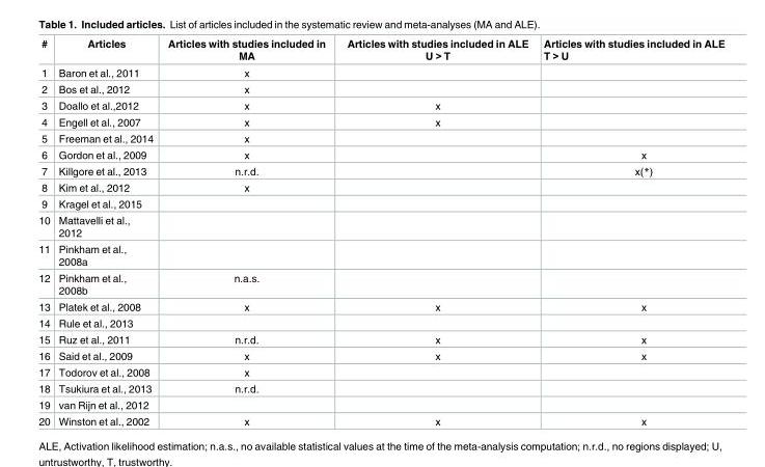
<table><thead><tr><td>#</td><td>Articles</td><td>Articles with studies included in MA</td><td>Articles with studies included in ALE U &gt; T</td><td>Articles with studies included in ALE T &gt; U</td></tr></thead><tbody><tr><td>1</td><td>Baron et al., 2011</td><td>x</td><td></td><td></td></tr><tr><td>2</td><td>Bos et al., 2012</td><td>x</td><td></td><td></td></tr><tr><td>3</td><td>Doallo et al.,2012</td><td>x</td><td>x</td><td></td></tr><tr><td>4</td><td>Engell et al., 2007</td><td>x</td><td>x</td><td></td></tr><tr><td>5</td><td>Freeman et al., 2014</td><td>x</td><td></td><td></td></tr><tr><td>6</td><td>Gordon et al., 2009</td><td>x</td><td></td><td>x</td></tr><tr><td>7</td><td>Killgore et al., 2013</td><td>n.r.d.</td><td></td><td>x(*)</td></tr><tr><td>8</td><td>Kim et al., 2012</td><td>x</td><td></td><td></td></tr><tr><td>9</td><td>Kragel et al., 2015</td><td></td><td></td><td></td></tr><tr><td>10</td><td>Mattavelli et al., 2012</td><td></td><td></td><td></td></tr><tr><td>11</td><td>Pinkham et al., 2008a</td><td></td><td></td><td></td></tr><tr><td>12</td><td>Pinkham et al., 2008b</td><td>n.a.s.</td><td></td><td></td></tr><tr><td>13</td><td>Platek et al., 2008</td><td>x</td><td>x</td><td>x</td></tr><tr><td>14</td><td>Rule et al., 2013</td><td></td><td></td><td></td></tr><tr><td>15</td><td>Ruz et al., 2011</td><td>n.r.d.</td><td>x</td><td>x</td></tr><tr><td>16</td><td>Said et al., 2009</td><td>x</td><td>x</td><td>x</td></tr><tr><td>17</td><td>Todorov et al., 2008</td><td>x</td><td></td><td></td></tr><tr><td>18</td><td>Tsukiura et al., 2013</td><td>n.r.d.</td><td></td><td></td></tr><tr><td>19</td><td>van Rijn et al., 2012</td><td></td><td></td><td></td></tr><tr><td>20</td><td>Winston et al., 2002</td><td>x</td><td>x</td><td>x</td></tr></tbody></table>